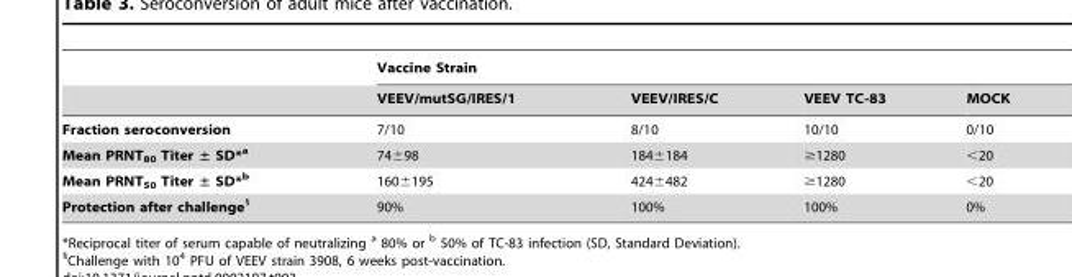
<table><thead><tr><td rowspan="2"></td><td colspan="4">Vaccine Strain</td></tr><tr><td>VEEV/mutSG/IRES/1</td><td>VEEV/IRES/C</td><td>VEEV TC-83</td><td>MOCK</td></tr></thead><tbody><tr><td>Fraction seroconversion</td><td>7/10</td><td>8/10</td><td>10/10</td><td>0/10</td></tr><tr><td>Mean PRNT<sub>80</sub> Titer ± SD*<sup>a</sup></td><td>74±98</td><td>184±184</td><td>≥1280</td><td>&lt;20</td></tr><tr><td>Mean PRNT<sub>50</sub> Titer ± SD*<sup>b</sup></td><td>160±195</td><td>424±482</td><td>≥1280</td><td>&lt;20</td></tr><tr><td>Protection after challenge§</td><td>90%</td><td>100%</td><td>100%</td><td>0%</td></tr></tbody></table>